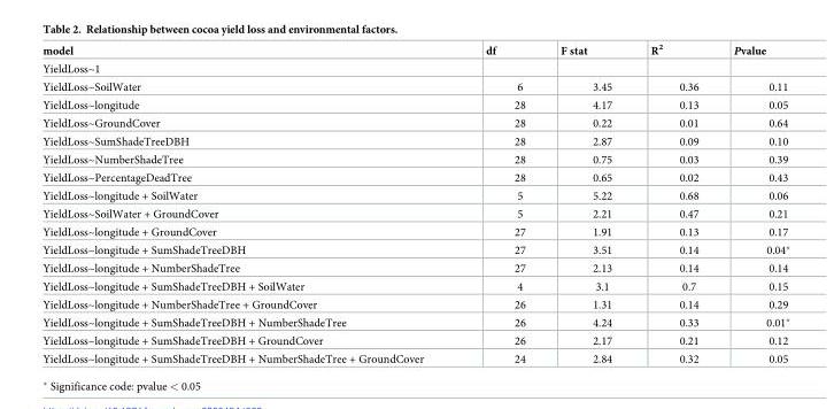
<table><thead><tr><td>model</td><td>df</td><td>F stat</td><td>R<sup>2</sup></td><td>Pvalue</td></tr></thead><tbody><tr><td colspan="5">YieldLoss~1</td></tr><tr><td>YieldLoss~SoilWater</td><td>6</td><td>3.45</td><td>0.36</td><td>0.11</td></tr><tr><td>YieldLoss~longitude</td><td>28</td><td>4.17</td><td>0.13</td><td>0.05</td></tr><tr><td>YieldLoss~GroundCover</td><td>28</td><td>0.22</td><td>0.01</td><td>0.64</td></tr><tr><td>YieldLoss~SumShadeTreeDBH</td><td>28</td><td>2.87</td><td>0.09</td><td>0.10</td></tr><tr><td>YieldLoss~NumberShadeTree</td><td>28</td><td>0.75</td><td>0.03</td><td>0.39</td></tr><tr><td>YieldLoss~PercentageDeadTree</td><td>28</td><td>0.65</td><td>0.02</td><td>0.43</td></tr><tr><td>YieldLoss~longitude + SoilWater</td><td>5</td><td>5.22</td><td>0.68</td><td>0.06</td></tr><tr><td>YieldLoss~SoilWater + GroundCover</td><td>5</td><td>2.21</td><td>0.47</td><td>0.21</td></tr><tr><td>YieldLoss~longitude + GroundCover</td><td>27</td><td>1.91</td><td>0.13</td><td>0.17</td></tr><tr><td>YieldLoss~longitude + SumShadeTreeDBH</td><td>27</td><td>3.51</td><td>0.14</td><td>0.04*</td></tr><tr><td>YieldLoss~longitude + NumberShadeTree</td><td>27</td><td>2.13</td><td>0.14</td><td>0.14</td></tr><tr><td>YieldLoss~longitude + SumShadeTreeDBH + SoilWater</td><td>4</td><td>3.1</td><td>0.7</td><td>0.15</td></tr><tr><td>YieldLoss~longitude + NumberShadeTree + GroundCover</td><td>26</td><td>1.31</td><td>0.14</td><td>0.29</td></tr><tr><td>YieldLoss~longitude + SumShadeTreeDBH + NumberShadeTree</td><td>26</td><td>4.24</td><td>0.33</td><td>0.01*</td></tr><tr><td>YieldLoss~longitude + SumShadeTreeDBH + GroundCover</td><td>26</td><td>2.17</td><td>0.21</td><td>0.12</td></tr><tr><td>YieldLoss~longitude + SumShadeTreeDBH + NumberShadeTree + GroundCover</td><td>24</td><td>2.84</td><td>0.32</td><td>0.05</td></tr></tbody></table>